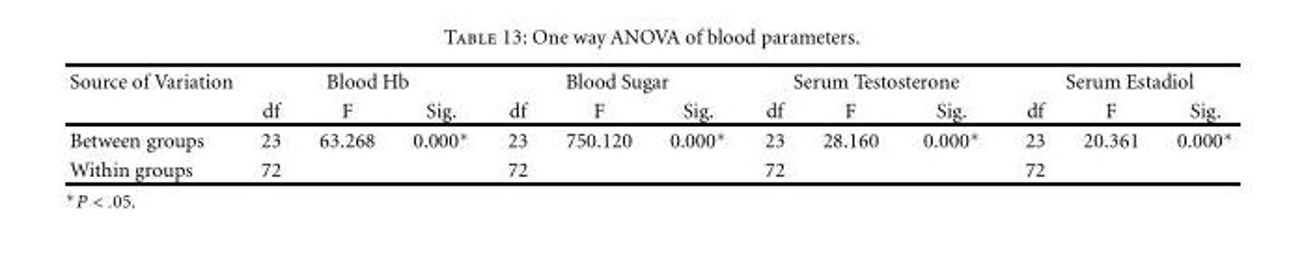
<table><thead><tr><td rowspan="2">Source of Variation</td><td colspan="3">Blood Hb</td><td colspan="3">Blood Sugar</td><td colspan="3">Serum Testosterone</td><td colspan="3">Serum Estadiol</td></tr><tr><td>df</td><td>F</td><td>Sig.</td><td>df</td><td>F</td><td>Sig.</td><td>df</td><td>F</td><td>Sig.</td><td>df</td><td>F</td><td>Sig.</td></tr></thead><tbody><tr><td>Between groups</td><td>23</td><td>63.268</td><td>0.000∗</td><td>23</td><td>750.120</td><td>0.000∗</td><td>23</td><td>28.160</td><td>0.000∗</td><td>23</td><td>20.361</td><td>0.000∗</td></tr><tr><td>Within groups</td><td>72</td><td></td><td></td><td>72</td><td></td><td></td><td>72</td><td></td><td></td><td>72</td><td></td><td></td></tr></tbody></table>